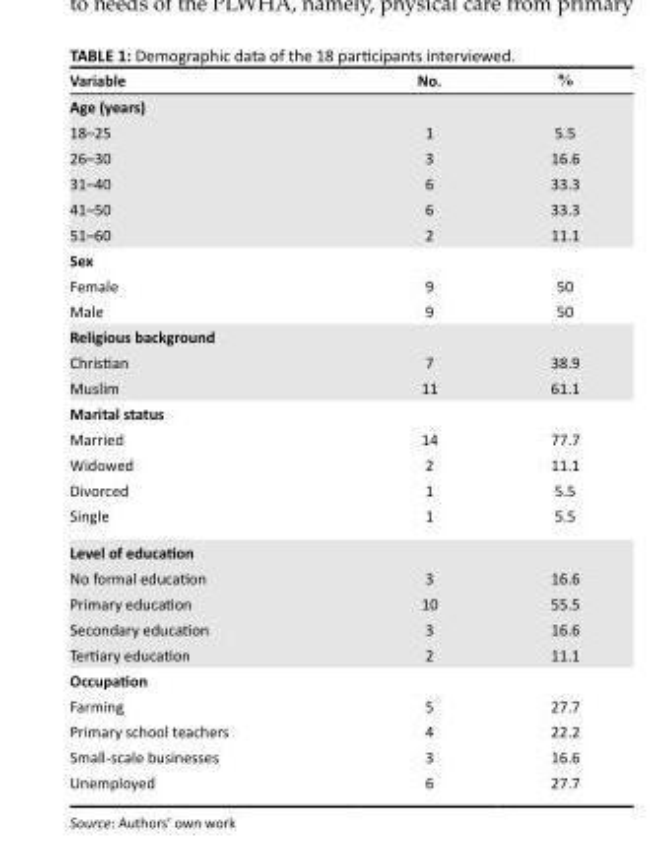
<table><thead><tr><td>Variable</td><td>No.</td><td>%</td></tr></thead><tbody><tr><td colspan="3">Age (years)</td></tr><tr><td>18–25</td><td>1</td><td>5.5</td></tr><tr><td>26–30</td><td>3</td><td>16.6</td></tr><tr><td>31–40</td><td>6</td><td>33.3</td></tr><tr><td>41–50</td><td>6</td><td>33.3</td></tr><tr><td>51–60</td><td>2</td><td>11.1</td></tr><tr><td colspan="3">Sex</td></tr><tr><td>Female</td><td>9</td><td>50</td></tr><tr><td>Male</td><td>9</td><td>50</td></tr><tr><td colspan="3">Religious background</td></tr><tr><td>Christian</td><td>7</td><td>38.9</td></tr><tr><td>Muslim</td><td>11</td><td>61.1</td></tr><tr><td colspan="3">Marital status</td></tr><tr><td>Married</td><td>14</td><td>77.7</td></tr><tr><td>Widowed</td><td>2</td><td>11.1</td></tr><tr><td>Divorced</td><td>1</td><td>5.5</td></tr><tr><td>Single</td><td>1</td><td>5.5</td></tr><tr><td colspan="3">Level of education</td></tr><tr><td>No formal education</td><td>3</td><td>16.6</td></tr><tr><td>Primary education</td><td>10</td><td>55.5</td></tr><tr><td>Secondary education</td><td>3</td><td>16.6</td></tr><tr><td>Tertiary education</td><td>2</td><td>11.1</td></tr><tr><td colspan="3">Occupation</td></tr><tr><td>Farming</td><td>5</td><td>27.7</td></tr><tr><td>Primary school teachers</td><td>4</td><td>22.2</td></tr><tr><td>Small-scale businesses</td><td>3</td><td>16.6</td></tr><tr><td>Unemployed</td><td>6</td><td>27.7</td></tr></tbody></table>